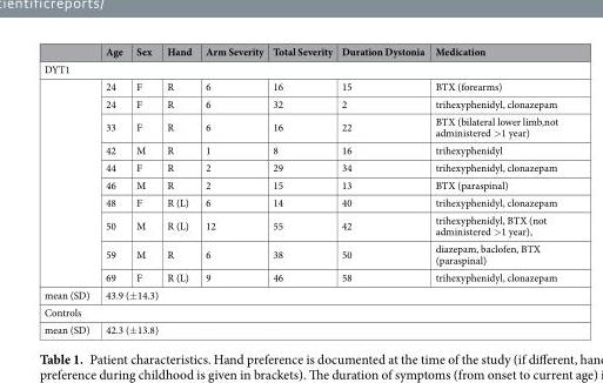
<table><thead><tr><td></td><td>Age</td><td>Sex</td><td>Hand</td><td>Arm Severity</td><td>Total Severity</td><td>Duration Dystonia</td><td>Medication</td></tr></thead><tbody><tr><td colspan="8">DYT1</td></tr><tr><td rowspan="10"></td><td>24</td><td>F</td><td>R</td><td>6</td><td>16</td><td>15</td><td>BTX (forearms)</td></tr><tr><td>24</td><td>F</td><td>R</td><td>6</td><td>32</td><td>2</td><td>trihexyphenidyl, clonazepam</td></tr><tr><td>33</td><td>F</td><td>R</td><td>6</td><td>16</td><td>22</td><td>BTX (bilateral lower limb,not administered &gt;1 year)</td></tr><tr><td>42</td><td>M</td><td>R</td><td>1</td><td>8</td><td>16</td><td>trihexyphenidyl</td></tr><tr><td>44</td><td>F</td><td>R</td><td>2</td><td>29</td><td>34</td><td>trihexyphenidyl, clonazepam</td></tr><tr><td>46</td><td>M</td><td>R</td><td>2</td><td>15</td><td>13</td><td>BTX (paraspinal)</td></tr><tr><td>48</td><td>F</td><td>R (L)</td><td>6</td><td>14</td><td>40</td><td>trihexyphenidyl, clonazepam</td></tr><tr><td>50</td><td>M</td><td>R (L)</td><td>12</td><td>55</td><td>42</td><td>trihexyphenidyl, BTX (not administered &gt;1 year),</td></tr><tr><td>59</td><td>M</td><td>R</td><td>6</td><td>38</td><td>50</td><td>diazepam, baclofen, BTX (paraspinal)</td></tr><tr><td>69</td><td>F</td><td>R (L)</td><td>9</td><td>46</td><td>58</td><td>trihexyphenidyl, clonazepam</td></tr><tr><td>mean (SD)</td><td colspan="7">43.9 (±14.3)</td></tr><tr><td colspan="8">Controls</td></tr><tr><td>mean (SD)</td><td colspan="7">42.3 (±13.8)</td></tr></tbody></table>